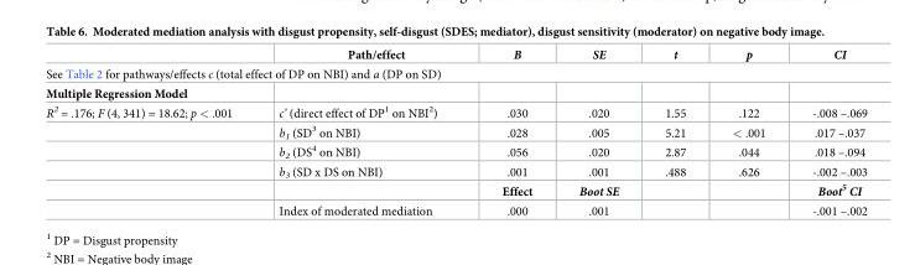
<table><thead><tr><td></td><td>Path/effect</td><td>B</td><td>SE</td><td>t</td><td>p</td><td>CI</td></tr></thead><tbody><tr><td colspan="7">See Table 2 for pathways/effects c (total effect of DP on NBI) and a (DP on SD)</td></tr><tr><td colspan="7">Multiple Regression Model</td></tr><tr><td rowspan="6">R<sup>2</sup> = .176; F (4, 341) = 18.62; p &lt; .001</td><td>c’ (direct effect of DP<sup>1</sup> on NBI<sup>2</sup>)</td><td>.030</td><td>.020</td><td>1.55</td><td>.122</td><td>-.008 –.069</td></tr><tr><td>b<sub>1</sub> (SD<sup>3</sup> on NBI)</td><td>.028</td><td>.005</td><td>5.21</td><td>&lt; .001</td><td>.017 –.037</td></tr><tr><td>b<sub>2</sub> (DS<sup>4</sup> on NBI)</td><td>.056</td><td>.020</td><td>2.87</td><td>.044</td><td>.018 –.094</td></tr><tr><td>b<sub>3</sub> (SD x DS on NBI)</td><td>.001</td><td>.001</td><td>.488</td><td>.626</td><td>-.002 –.003</td></tr><tr><td></td><td>Effect</td><td>Boot SE</td><td></td><td></td><td>Boot<sup>5</sup> CI</td></tr><tr><td>Index of moderated mediation</td><td>.000</td><td>.001</td><td></td><td></td><td>-.001 –.002</td></tr></tbody></table>